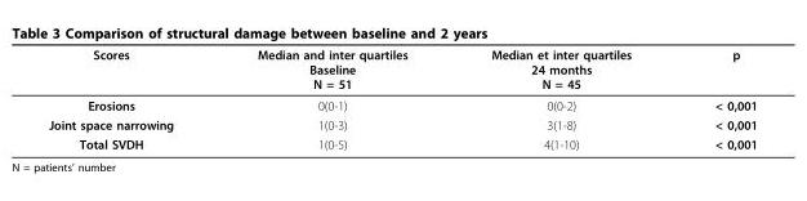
<table><thead><tr><td>Scores</td><td>Median and inter quartiles Baseline N = 51</td><td>Median et inter quartiles 24 months N = 45</td><td>p</td></tr></thead><tbody><tr><td>Erosions</td><td>0(0-1)</td><td>0(0-2)</td><td>&lt; 0,001</td></tr><tr><td>Joint space narrowing</td><td>1(0-3)</td><td>3(1-8)</td><td>&lt; 0,001</td></tr><tr><td>Total SVDH</td><td>1(0-5)</td><td>4(1-10)</td><td>&lt; 0,001</td></tr></tbody></table>